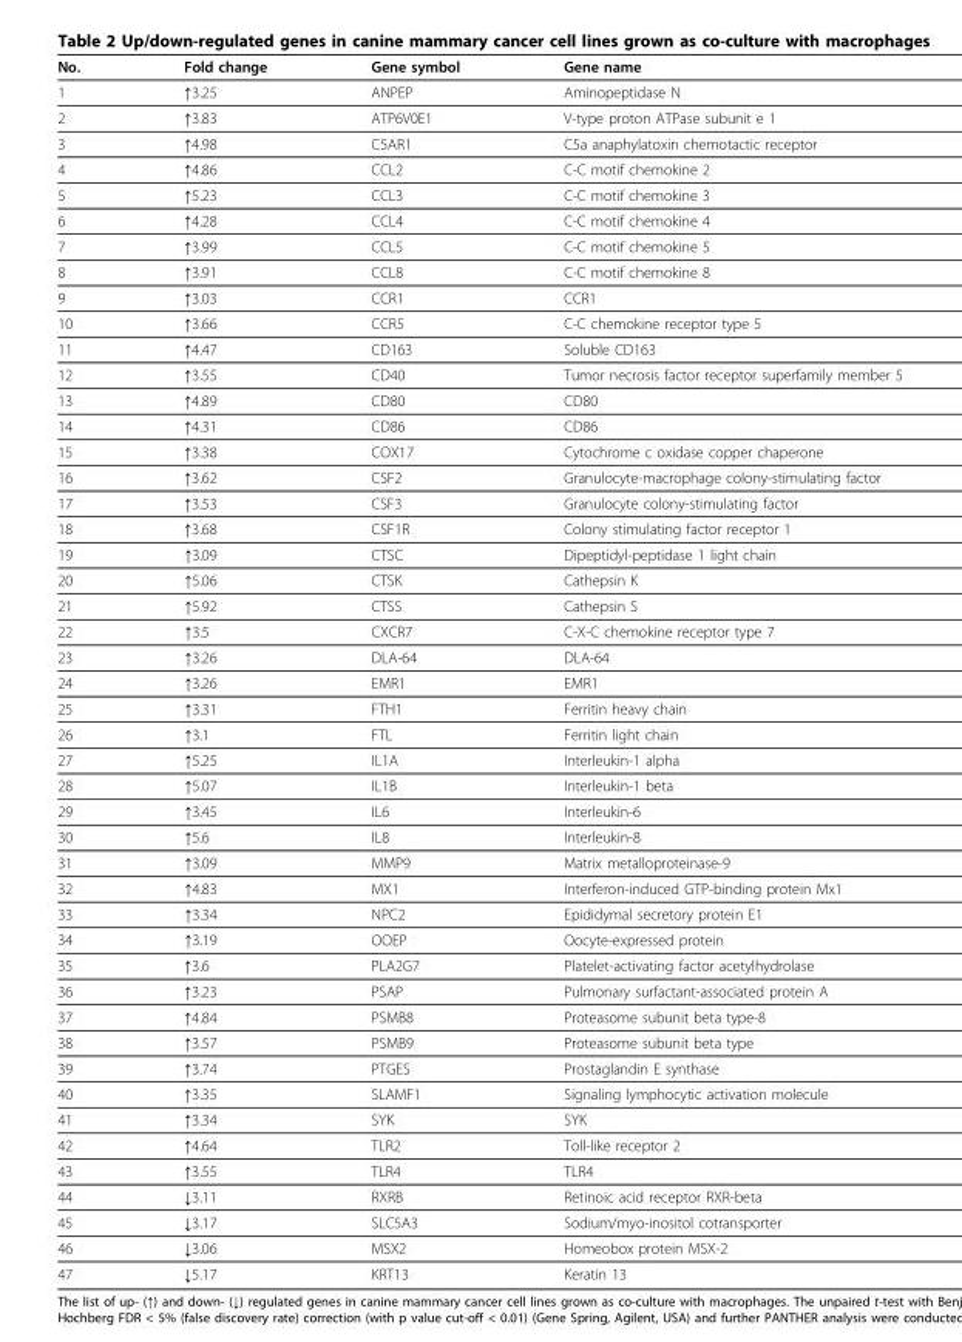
<table><thead><tr><td>No.</td><td>Fold change</td><td>Gene symbol</td><td>Gene name</td></tr></thead><tbody><tr><td>1</td><td>↑3.25</td><td>ANPEP</td><td>Aminopeptidase N</td></tr><tr><td>2</td><td>↑3.83</td><td>ATP6V0E1</td><td>V-type proton ATPase subunit e 1</td></tr><tr><td>3</td><td>↑4.98</td><td>C5AR1</td><td>C5a anaphylatoxin chemotactic receptor</td></tr><tr><td>4</td><td>↑4.86</td><td>CCL2</td><td>C-C motif chemokine 2</td></tr><tr><td>5</td><td>↑5.23</td><td>CCL3</td><td>C-C motif chemokine 3</td></tr><tr><td>6</td><td>↑4.28</td><td>CCL4</td><td>C-C motif chemokine 4</td></tr><tr><td>7</td><td>↑3.99</td><td>CCL5</td><td>C-C motif chemokine 5</td></tr><tr><td>8</td><td>↑3.91</td><td>CCL8</td><td>C-C motif chemokine 8</td></tr><tr><td>9</td><td>↑3.03</td><td>CCR1</td><td>CCR1</td></tr><tr><td>10</td><td>↑3.66</td><td>CCR5</td><td>C-C chemokine receptor type 5</td></tr><tr><td>11</td><td>↑4.47</td><td>CD163</td><td>Soluble CD163</td></tr><tr><td>12</td><td>↑3.55</td><td>CD40</td><td>Tumor necrosis factor receptor superfamily member 5</td></tr><tr><td>13</td><td>↑4.89</td><td>CD80</td><td>CD80</td></tr><tr><td>14</td><td>↑4.31</td><td>CD86</td><td>CD86</td></tr><tr><td>15</td><td>↑3.38</td><td>COX17</td><td>Cytochrome c oxidase copper chaperone</td></tr><tr><td>16</td><td>↑3.62</td><td>CSF2</td><td>Granulocyte-macrophage colony-stimulating factor</td></tr><tr><td>17</td><td>↑3.53</td><td>CSF3</td><td>Granulocyte colony-stimulating factor</td></tr><tr><td>18</td><td>↑3.68</td><td>CSF1R</td><td>Colony stimulating factor receptor 1</td></tr><tr><td>19</td><td>↑3.09</td><td>CTSC</td><td>Dipeptidyl-peptidase 1 light chain</td></tr><tr><td>20</td><td>↑5.06</td><td>CTSK</td><td>Cathepsin K</td></tr><tr><td>21</td><td>↑5.92</td><td>CTSS</td><td>Cathepsin S</td></tr><tr><td>22</td><td>↑3.5</td><td>CXCR7</td><td>C-X-C chemokine receptor type 7</td></tr><tr><td>23</td><td>↑3.26</td><td>DLA-64</td><td>DLA-64</td></tr><tr><td>24</td><td>↑3.26</td><td>EMR1</td><td>EMR1</td></tr><tr><td>25</td><td>↑3.31</td><td>FTH1</td><td>Ferritin heavy chain</td></tr><tr><td>26</td><td>↑3.1</td><td>FTL</td><td>Ferritin light chain</td></tr><tr><td>27</td><td>↑5.25</td><td>IL1A</td><td>Interleukin-1 alpha</td></tr><tr><td>28</td><td>↑5.07</td><td>IL1B</td><td>Interleukin-1 beta</td></tr><tr><td>29</td><td>↑3.45</td><td>IL6</td><td>Interleukin-6</td></tr><tr><td>30</td><td>↑5.6</td><td>IL8</td><td>Interleukin-8</td></tr><tr><td>31</td><td>↑3.09</td><td>MMP9</td><td>Matrix metalloproteinase-9</td></tr><tr><td>32</td><td>↑4.83</td><td>MX1</td><td>Interferon-induced GTP-binding protein Mx1</td></tr><tr><td>33</td><td>↑3.34</td><td>NPC2</td><td>Epididymal secretory protein E1</td></tr><tr><td>34</td><td>↑3.19</td><td>OOEP</td><td>Oocyte-expressed protein</td></tr><tr><td>35</td><td>↑3.6</td><td>PLA2G7</td><td>Platelet-activating factor acetylhydrolase</td></tr><tr><td>36</td><td>↑3.23</td><td>PSAP</td><td>Pulmonary surfactant-associated protein A</td></tr><tr><td>37</td><td>↑4.84</td><td>PSMB8</td><td>Proteasome subunit beta type-8</td></tr><tr><td>38</td><td>↑3.57</td><td>PSMB9</td><td>Proteasome subunit beta type</td></tr><tr><td>39</td><td>↑3.74</td><td>PTGES</td><td>Prostaglandin E synthase</td></tr><tr><td>40</td><td>↑3.35</td><td>SLAMF1</td><td>Signaling lymphocytic activation molecule</td></tr><tr><td>41</td><td>↑3.34</td><td>SYK</td><td>SYK</td></tr><tr><td>42</td><td>↑4.64</td><td>TLR2</td><td>Toll-like receptor 2</td></tr><tr><td>43</td><td>↑3.55</td><td>TLR4</td><td>TLR4</td></tr><tr><td>44</td><td>↓3.11</td><td>RXRB</td><td>Retinoic acid receptor RXR-beta</td></tr><tr><td>45</td><td>↓3.17</td><td>SLC5A3</td><td>Sodium/myo-inositol cotransporter</td></tr><tr><td>46</td><td>↓3.06</td><td>MSX2</td><td>Homeobox protein MSX-2</td></tr><tr><td>47</td><td>↓5.17</td><td>KRT13</td><td>Keratin 13</td></tr></tbody></table>